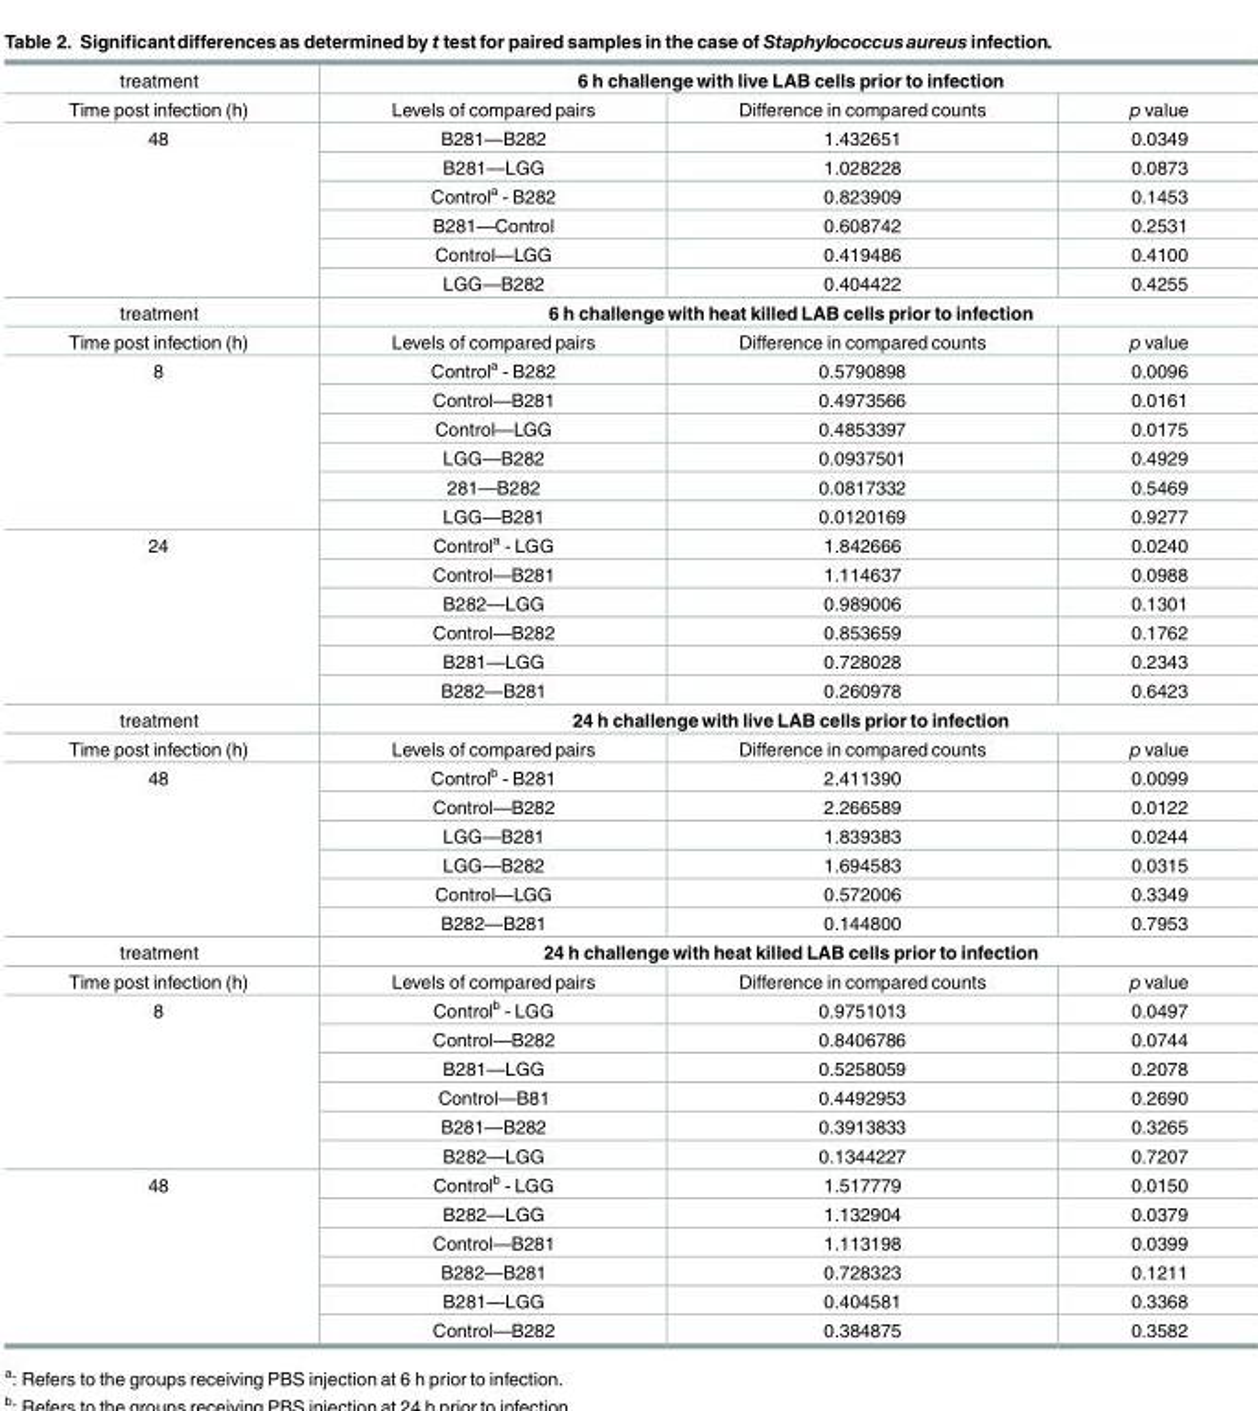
<table><tbody><tr><td>treatment</td><td colspan="3">6 h challenge with live LAB cells prior to infection</td></tr><tr><td>Time post infection (h)</td><td>Levels of compared pairs</td><td>Difference in compared counts</td><td>p value</td></tr><tr><td rowspan="6">48</td><td>B281—B282</td><td>1.432651</td><td>0.0349</td></tr><tr><td>B281—LGG</td><td>1.028228</td><td>0.0873</td></tr><tr><td>Control<sup>a</sup> - B282</td><td>0.823909</td><td>0.1453</td></tr><tr><td>B281—Control</td><td>0.608742</td><td>0.2531</td></tr><tr><td>Control—LGG</td><td>0.419486</td><td>0.4100</td></tr><tr><td>LGG—B282</td><td>0.404422</td><td>0.4255</td></tr><tr><td>treatment</td><td colspan="3">6 h challenge with heat killed LAB cells prior to infection</td></tr><tr><td>Time post infection (h)</td><td>Levels of compared pairs</td><td>Difference in compared counts</td><td>p value</td></tr><tr><td rowspan="6">8</td><td>Control<sup>a</sup> - B282</td><td>0.5790898</td><td>0.0096</td></tr><tr><td>Control—B281</td><td>0.4973566</td><td>0.0161</td></tr><tr><td>Control—LGG</td><td>0.4853397</td><td>0.0175</td></tr><tr><td>LGG—B282</td><td>0.0937501</td><td>0.4929</td></tr><tr><td>281—B282</td><td>0.0817332</td><td>0.5469</td></tr><tr><td>LGG—B281</td><td>0.0120169</td><td>0.9277</td></tr><tr><td rowspan="6">24</td><td>Control<sup>a</sup> - LGG</td><td>1.842666</td><td>0.0240</td></tr><tr><td>Control—B281</td><td>1.114637</td><td>0.0988</td></tr><tr><td>B282—LGG</td><td>0.989006</td><td>0.1301</td></tr><tr><td>Control—B282</td><td>0.853659</td><td>0.1762</td></tr><tr><td>B281—LGG</td><td>0.728028</td><td>0.2343</td></tr><tr><td>B282—B281</td><td>0.260978</td><td>0.6423</td></tr><tr><td>treatment</td><td colspan="3">24 h challenge with live LAB cells prior to infection</td></tr><tr><td>Time post infection (h)</td><td>Levels of compared pairs</td><td>Difference in compared counts</td><td>p value</td></tr><tr><td rowspan="6">48</td><td>Control<sup>b</sup> - B281</td><td>2.411390</td><td>0.0099</td></tr><tr><td>Control—B282</td><td>2.266589</td><td>0.0122</td></tr><tr><td>LGG—B281</td><td>1.839383</td><td>0.0244</td></tr><tr><td>LGG—B282</td><td>1.694583</td><td>0.0315</td></tr><tr><td>Control—LGG</td><td>0.572006</td><td>0.3349</td></tr><tr><td>B282—B281</td><td>0.144800</td><td>0.7953</td></tr><tr><td>treatment</td><td colspan="3">24 h challenge with heat killed LAB cells prior to infection</td></tr><tr><td>Time post infection (h)</td><td>Levels of compared pairs</td><td>Difference in compared counts</td><td>p value</td></tr><tr><td rowspan="6">8</td><td>Control<sup>b</sup> - LGG</td><td>0.9751013</td><td>0.0497</td></tr><tr><td>Control—B282</td><td>0.8406786</td><td>0.0744</td></tr><tr><td>B281—LGG</td><td>0.5258059</td><td>0.2078</td></tr><tr><td>Control—B81</td><td>0.4492953</td><td>0.2690</td></tr><tr><td>B281—B282</td><td>0.3913833</td><td>0.3265</td></tr><tr><td>B282—LGG</td><td>0.1344227</td><td>0.7207</td></tr><tr><td rowspan="6">48</td><td>Control<sup>b</sup> - LGG</td><td>1.517779</td><td>0.0150</td></tr><tr><td>B282—LGG</td><td>1.132904</td><td>0.0379</td></tr><tr><td>Control—B281</td><td>1.113198</td><td>0.0399</td></tr><tr><td>B282—B281</td><td>0.728323</td><td>0.1211</td></tr><tr><td>B281—LGG</td><td>0.404581</td><td>0.3368</td></tr><tr><td>Control—B282</td><td>0.384875</td><td>0.3582</td></tr></tbody></table>